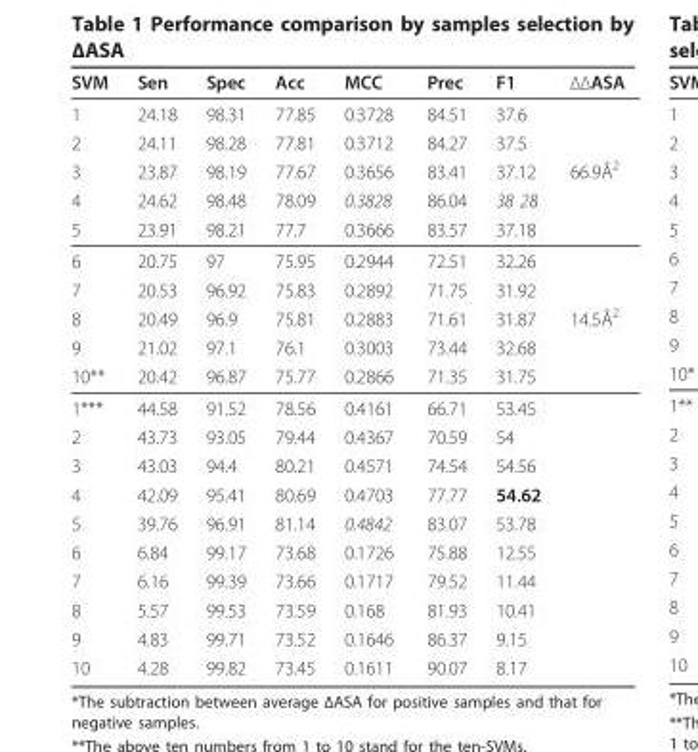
<table><thead><tr><td>SVM</td><td>Sen</td><td>Spec</td><td>Acc</td><td>MCC</td><td>Prec</td><td>F1</td><td>ΔΔASA</td></tr></thead><tbody><tr><td>1</td><td>24.18</td><td>98.31</td><td>77.85</td><td>0.3728</td><td>84.51</td><td>37.6</td><td></td></tr><tr><td>2</td><td>24.11</td><td>98.28</td><td>77.81</td><td>0.3712</td><td>84.27</td><td>37.5</td><td></td></tr><tr><td>3</td><td>23.87</td><td>98.19</td><td>77.67</td><td>0.3656</td><td>83.41</td><td>37.12</td><td>66.9Å<sup>2</sup></td></tr><tr><td>4</td><td>24.62</td><td>98.48</td><td>78.09</td><td>0.3828</td><td>86.04</td><td>38 28</td><td></td></tr><tr><td>5</td><td>23.91</td><td>98.21</td><td>77.7</td><td>0.3666</td><td>83.57</td><td>37.18</td><td></td></tr><tr><td>6</td><td>20.75</td><td>97</td><td>75.95</td><td>0.2944</td><td>72.51</td><td>32.26</td><td></td></tr><tr><td>7</td><td>20.53</td><td>96.92</td><td>75.83</td><td>0.2892</td><td>71.75</td><td>31.92</td><td></td></tr><tr><td>8</td><td>20.49</td><td>96.9</td><td>75.81</td><td>0.2883</td><td>71.61</td><td>31.87</td><td>14.5Å<sup>2</sup></td></tr><tr><td>9</td><td>21.02</td><td>97.1</td><td>76.1</td><td>0.3003</td><td>73.44</td><td>32.68</td><td></td></tr><tr><td>10**</td><td>20.42</td><td>96.87</td><td>75.77</td><td>0.2866</td><td>71.35</td><td>31.75</td><td></td></tr><tr><td>1***</td><td>44.58</td><td>91.52</td><td>78.56</td><td>0.4161</td><td>66.71</td><td>53.45</td><td></td></tr><tr><td>2</td><td>43.73</td><td>93.05</td><td>79.44</td><td>0.4367</td><td>70.59</td><td>54</td><td></td></tr><tr><td>3</td><td>43.03</td><td>94.4</td><td>80.21</td><td>0.4571</td><td>74.54</td><td>54.56</td><td></td></tr><tr><td>4</td><td>42.09</td><td>95.41</td><td>80.69</td><td>0.4703</td><td>77.77</td><td>54.62</td><td></td></tr><tr><td>5</td><td>39.76</td><td>96.91</td><td>81.14</td><td>0.4842</td><td>83.07</td><td>53.78</td><td></td></tr><tr><td>6</td><td>6.84</td><td>99.17</td><td>73.68</td><td>0.1726</td><td>75.88</td><td>12.55</td><td></td></tr><tr><td>7</td><td>6.16</td><td>99.39</td><td>73.66</td><td>0.1717</td><td>79.52</td><td>11.44</td><td></td></tr><tr><td>8</td><td>5.57</td><td>99.53</td><td>73.59</td><td>0.168</td><td>81.93</td><td>10.41</td><td></td></tr><tr><td>9</td><td>4.83</td><td>99.71</td><td>73.52</td><td>0.1646</td><td>86.37</td><td>9.15</td><td></td></tr><tr><td>10</td><td>4.28</td><td>99.82</td><td>73.45</td><td>0.1611</td><td>90.07</td><td>8.17</td><td></td></tr></tbody></table>